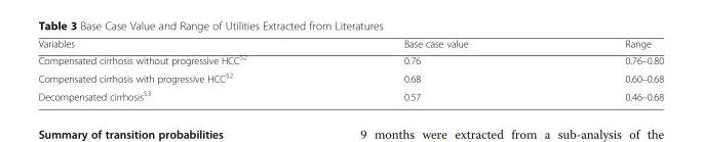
<table><thead><tr><td>Variables</td><td>Base case value</td><td>Range</td></tr></thead><tbody><tr><td>Compensated cirrhosis without progressive HCC<sup>52</sup></td><td>0.76</td><td>0.76–0.80</td></tr><tr><td>Compensated cirrhosis with progressive HCC<sup>52</sup></td><td>0.68</td><td>0.60–0.68</td></tr><tr><td>Decompensated cirrhosis<sup>53</sup></td><td>0.57</td><td>0.46–0.68</td></tr></tbody></table>